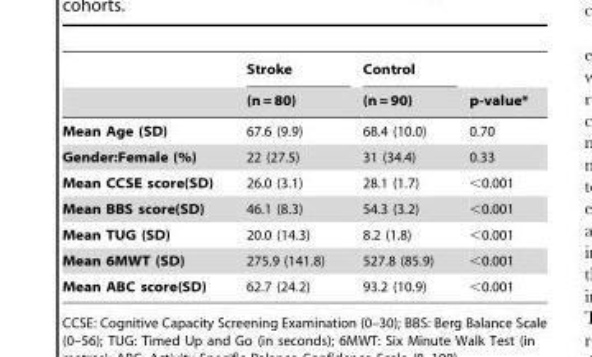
<table><thead><tr><td rowspan="2"></td><td rowspan="2">Stroke (n = 80)</td><td rowspan="2">Control (n = 90)</td><td rowspan="2">p-value*</td></tr><tr></tr></thead><tbody><tr><td>Mean Age (SD)</td><td>67.6 (9.9)</td><td>68.4 (10.0)</td><td>0.70</td></tr><tr><td>Gender:Female (%)</td><td>22 (27.5)</td><td>31 (34.4)</td><td>0.33</td></tr><tr><td>Mean CCSE score(SD)</td><td>26.0 (3.1)</td><td>28.1 (1.7)</td><td>&lt;0.001</td></tr><tr><td>Mean BBS score(SD)</td><td>46.1 (8.3)</td><td>54.3 (3.2)</td><td>&lt;0.001</td></tr><tr><td>Mean TUG (SD)</td><td>20.0 (14.3)</td><td>8.2 (1.8)</td><td>&lt;0.001</td></tr><tr><td>Mean 6MWT (SD)</td><td>275.9 (141.8)</td><td>527.8 (85.9)</td><td>&lt;0.001</td></tr><tr><td>Mean ABC score(SD)</td><td>62.7 (24.2)</td><td>93.2 (10.9)</td><td>&lt;0.001</td></tr></tbody></table>